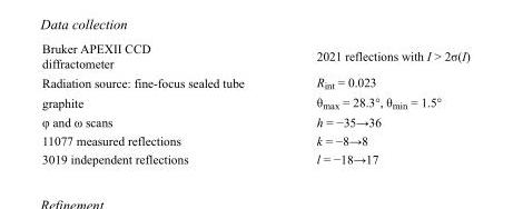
<table><tbody><tr><td>Bruker APEXII CCD diffractometer</td><td>2021 reflections with I &gt; 2σ(I)</td></tr><tr><td>Radiation source: fine-focus sealed tube</td><td>R<sub>int</sub> = 0.023</td></tr><tr><td>graphite</td><td>θ<sub>max</sub> = 28.3°, θ<sub>min</sub> = 1.5°</td></tr><tr><td>φ and ω scans</td><td>h = −35→36</td></tr><tr><td>11077 measured reflections</td><td>k = −8→8</td></tr><tr><td>3019 independent reflections</td><td>l = −18→17</td></tr></tbody></table>